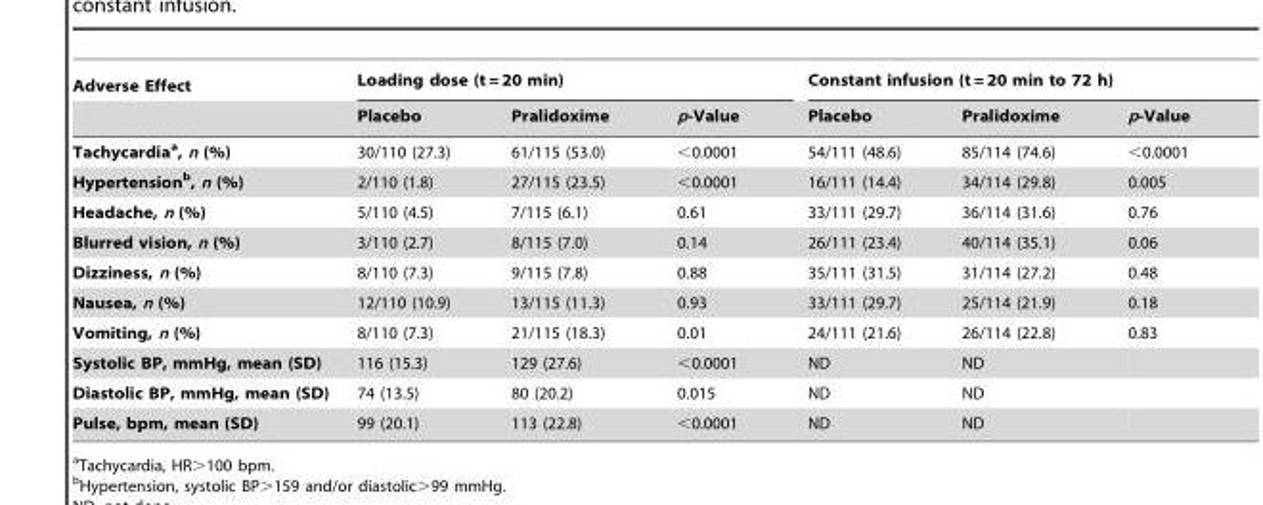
<table><thead><tr><td rowspan="2">Adverse Effect</td><td colspan="3">Loading dose (t = 20 min)</td><td colspan="3">Constant infusion (t = 20 min to 72 h)</td></tr><tr><td>Placebo</td><td>Pralidoxime</td><td>p-Value</td><td>Placebo</td><td>Pralidoxime</td><td>p-Value</td></tr></thead><tbody><tr><td>Tachycardiaa, n (%)</td><td>30/110 (27.3)</td><td>61/115 (53.0)</td><td>&lt;0.0001</td><td>54/111 (48.6)</td><td>85/114 (74.6)</td><td>&lt;0.0001</td></tr><tr><td>Hypertensionb, n (%)</td><td>2/110 (1.8)</td><td>27/115 (23.5)</td><td>&lt;0.0001</td><td>16/111 (14.4)</td><td>34/114 (29.8)</td><td>0.005</td></tr><tr><td>Headache, n (%)</td><td>5/110 (4.5)</td><td>7/115 (6.1)</td><td>0.61</td><td>33/111 (29.7)</td><td>36/114 (31.6)</td><td>0.76</td></tr><tr><td>Blurred vision, n (%)</td><td>3/110 (2.7)</td><td>8/115 (7.0)</td><td>0.14</td><td>26/111 (23.4)</td><td>40/114 (35.1)</td><td>0.06</td></tr><tr><td>Dizziness, n (%)</td><td>8/110 (7.3)</td><td>9/115 (7.8)</td><td>0.88</td><td>35/111 (31.5)</td><td>31/114 (27.2)</td><td>0.48</td></tr><tr><td>Nausea, n (%)</td><td>12/110 (10.9)</td><td>13/115 (11.3)</td><td>0.93</td><td>33/111 (29.7)</td><td>25/114 (21.9)</td><td>0.18</td></tr><tr><td>Vomiting, n (%)</td><td>8/110 (7.3)</td><td>21/115 (18.3)</td><td>0.01</td><td>24/111 (21.6)</td><td>26/114 (22.8)</td><td>0.83</td></tr><tr><td>Systolic BP, mmHg, mean (SD)</td><td>116 (15.3)</td><td>129 (27.6)</td><td>&lt;0.0001</td><td>ND</td><td>ND</td><td></td></tr><tr><td>Diastolic BP, mmHg, mean (SD)</td><td>74 (13.5)</td><td>80 (20.2)</td><td>0.015</td><td>ND</td><td>ND</td><td></td></tr><tr><td>Pulse, bpm, mean (SD)</td><td>99 (20.1)</td><td>113 (22.8)</td><td>&lt;0.0001</td><td>ND</td><td>ND</td><td></td></tr></tbody></table>